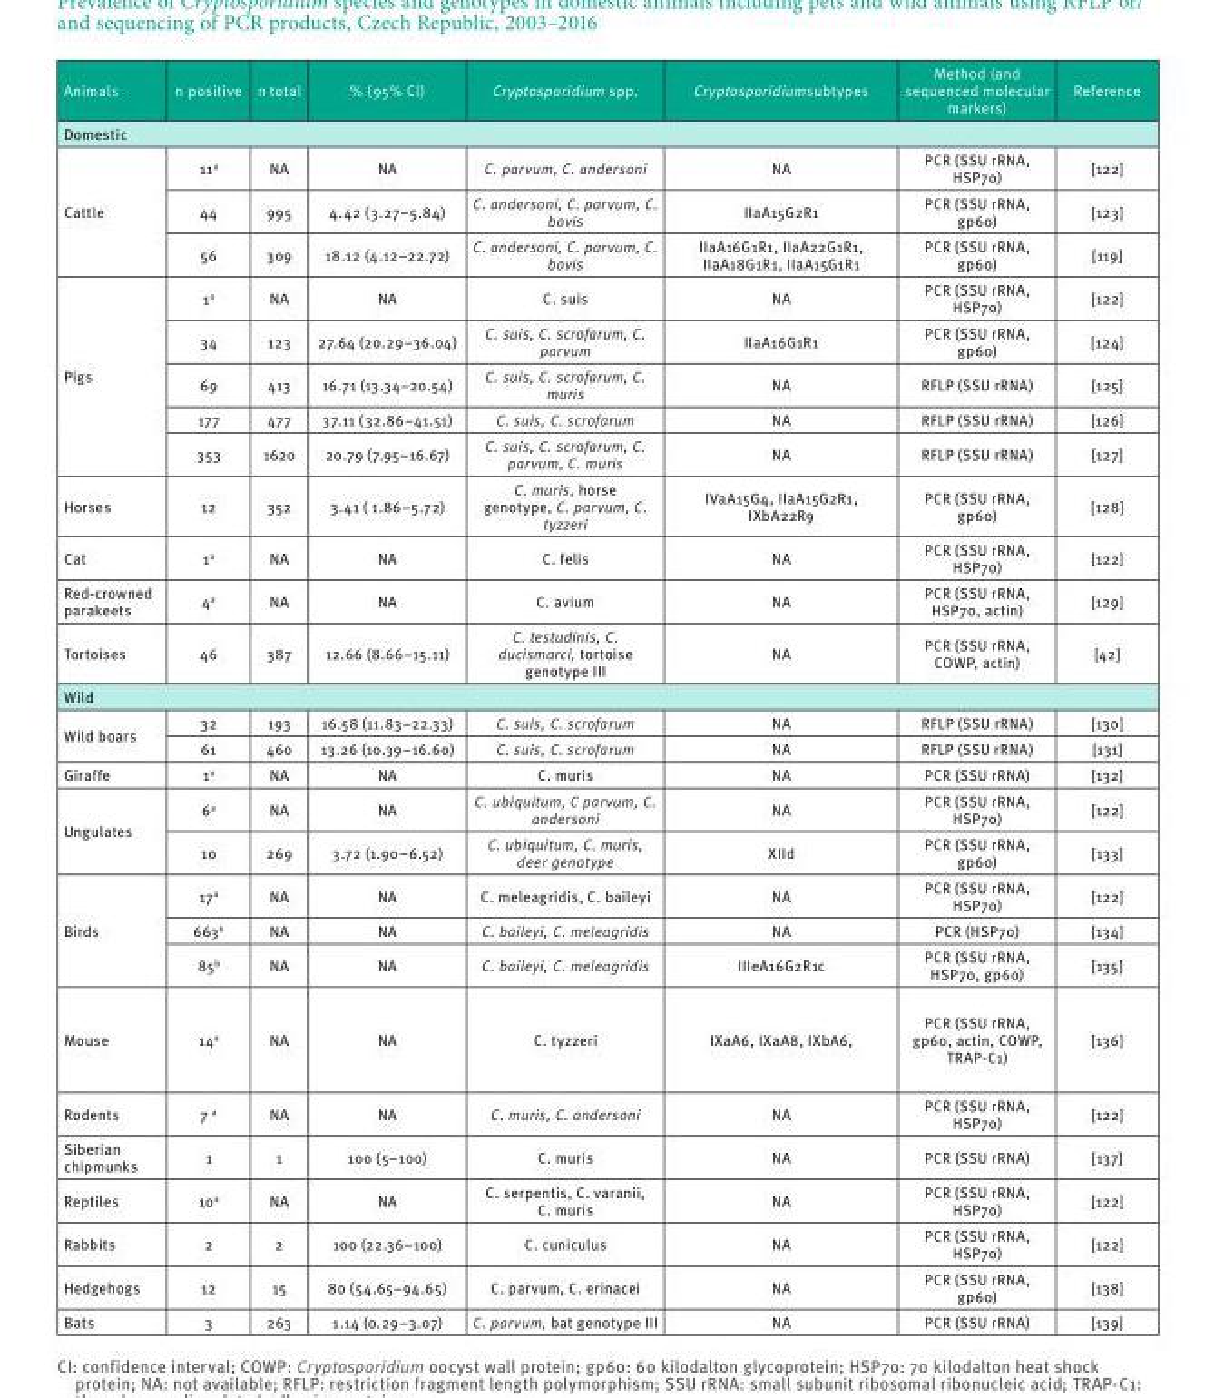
<table><thead><tr><td>Animals</td><td>n positive</td><td>n total</td><td>% (95% CI)</td><td>Cryptosporidium spp.</td><td>Cryptosporidiumsubtypes</td><td>Method (and sequenced molecular markers)</td><td>Reference</td></tr></thead><tbody><tr><td colspan="8">Domestic</td></tr><tr><td rowspan="3">Cattle</td><td>11<sup>a</sup></td><td>NA</td><td>NA</td><td>C. parvum, C. andersoni</td><td>NA</td><td>PCR (SSU rRNA, HSP70)</td><td>[122]</td></tr><tr><td>44</td><td>995</td><td>4.42 (3.27–5.84)</td><td>C. andersoni, C. parvum, C. bovis</td><td>IIaA15G2R1</td><td>PCR (SSU rRNA, gp60)</td><td>[123]</td></tr><tr><td>56</td><td>309</td><td>18.12 (4.12–22.72)</td><td>C. andersoni, C. parvum, C. bovis</td><td>IIaA16G1R1, IIaA22G1R1, IIaA18G1R1, IIaA15G1R1</td><td>PCR (SSU rRNA, gp60)</td><td>[119]</td></tr><tr><td rowspan="5">Pigs</td><td>1<sup>a</sup></td><td>NA</td><td>NA</td><td>C. suis</td><td>NA</td><td>PCR (SSU rRNA, HSP70)</td><td>[122]</td></tr><tr><td>34</td><td>123</td><td>27.64 (20.29–36.04)</td><td>C. suis, C. scrofarum, C. parvum</td><td>IIaA16G1R1</td><td>PCR (SSU rRNA, gp60)</td><td>[124]</td></tr><tr><td>69</td><td>413</td><td>16.71 (13.34–20.54)</td><td>C. suis, C. scrofarum, C. muris</td><td>NA</td><td>RFLP (SSU rRNA)</td><td>[125]</td></tr><tr><td>177</td><td>477</td><td>37.11 (32.86–41.51)</td><td>C. suis, C. scrofarum</td><td>NA</td><td>RFLP (SSU rRNA)</td><td>[126]</td></tr><tr><td>353</td><td>1620</td><td>20.79 (7.95–16.67)</td><td>C. suis, C. scrofarum, C. parvum, C. muris</td><td>NA</td><td>RFLP (SSU rRNA)</td><td>[127]</td></tr><tr><td>Horses</td><td>12</td><td>352</td><td>3.41 ( 1.86–5.72)</td><td>C. muris, horse genotype, C. parvum, C. tyzzeri</td><td>IVaA15G4, IIaA15G2R1, IXbA22R9</td><td>PCR (SSU rRNA, gp60)</td><td>[128]</td></tr><tr><td>Cat</td><td>1<sup>a</sup></td><td>NA</td><td>NA</td><td>C. felis</td><td>NA</td><td>PCR (SSU rRNA, HSP70)</td><td>[122]</td></tr><tr><td>Red-crowned parakeets</td><td>4<sup>a</sup></td><td>NA</td><td>NA</td><td>C. avium</td><td>NA</td><td>PCR (SSU rRNA, HSP70, actin)</td><td>[129]</td></tr><tr><td>Tortoises</td><td>46</td><td>387</td><td>12.66 (8.66–15.11)</td><td>C. testudinis, C. ducismarci, tortoise genotype III</td><td>NA</td><td>PCR (SSU rRNA, COWP, actin)</td><td>[42]</td></tr><tr><td colspan="8">Wild</td></tr><tr><td rowspan="2">Wild boars</td><td>32</td><td>193</td><td>16.58 (11.83–22.33)</td><td>C. suis, C. scrofarum</td><td>NA</td><td>RFLP (SSU rRNA)</td><td>[130]</td></tr><tr><td>61</td><td>460</td><td>13.26 (10.39–16.60)</td><td>C. suis, C. scrofarum</td><td>NA</td><td>RFLP (SSU rRNA)</td><td>[131]</td></tr><tr><td>Giraffe</td><td>1<sup>a</sup></td><td>NA</td><td>NA</td><td>C. muris</td><td>NA</td><td>PCR (SSU rRNA)</td><td>[132]</td></tr><tr><td rowspan="2">Ungulates</td><td>6<sup>a</sup></td><td>NA</td><td>NA</td><td>C. ubiquitum, C parvum, C. andersoni</td><td>NA</td><td>PCR (SSU rRNA, HSP70)</td><td>[122]</td></tr><tr><td>10</td><td>269</td><td>3.72 (1.90–6.52)</td><td>C. ubiquitum, C. muris, deer genotype</td><td>XIId</td><td>PCR (SSU rRNA, gp60)</td><td>[133]</td></tr><tr><td rowspan="3">Birds</td><td>17<sup>a</sup></td><td>NA</td><td>NA</td><td>C. meleagridis, C. baileyi</td><td>NA</td><td>PCR (SSU rRNA, HSP70)</td><td>[122]</td></tr><tr><td>663<sup>b</sup></td><td>NA</td><td>NA</td><td>C. baileyi, C. meleagridis</td><td>NA</td><td>PCR (HSP70)</td><td>[134]</td></tr><tr><td>85<sup>b</sup></td><td>NA</td><td>NA</td><td>C. baileyi, C. meleagridis</td><td>IIIeA16G2R1c</td><td>PCR (SSU rRNA, HSP70, gp60)</td><td>[135]</td></tr><tr><td>Mouse</td><td>14<sup>a</sup></td><td>NA</td><td>NA</td><td>C. tyzzeri</td><td>IXaA6, IXaA8, IXbA6,</td><td>PCR (SSU rRNA, gp60, actin, COWP, TRAP-C1)</td><td>[136]</td></tr><tr><td>Rodents</td><td>7 <sup>a</sup></td><td>NA</td><td>NA</td><td>C. muris, C. andersoni</td><td>NA</td><td>PCR (SSU rRNA, HSP70)</td><td>[122]</td></tr><tr><td>Siberian chipmunks</td><td>1</td><td>1</td><td>100 (5–100)</td><td>C. muris</td><td>NA</td><td>PCR (SSU rRNA)</td><td>[137]</td></tr><tr><td>Reptiles</td><td>10<sup>a</sup></td><td>NA</td><td>NA</td><td>C. serpentis, C. varanii, C. muris</td><td>NA</td><td>PCR (SSU rRNA, HSP70)</td><td>[122]</td></tr><tr><td>Rabbits</td><td>2</td><td>2</td><td>100 (22.36–100)</td><td>C. cuniculus</td><td>NA</td><td>PCR (SSU rRNA, HSP70)</td><td>[122]</td></tr><tr><td>Hedgehogs</td><td>12</td><td>15</td><td>80 (54.65–94.65)</td><td>C. parvum, C. erinacei</td><td>NA</td><td>PCR (SSU rRNA, gp60)</td><td>[138]</td></tr><tr><td>Bats</td><td>3</td><td>263</td><td>1.14 (0.29–3.07)</td><td>C. parvum, bat genotype III</td><td>NA</td><td>PCR (SSU rRNA)</td><td>[139]</td></tr></tbody></table>